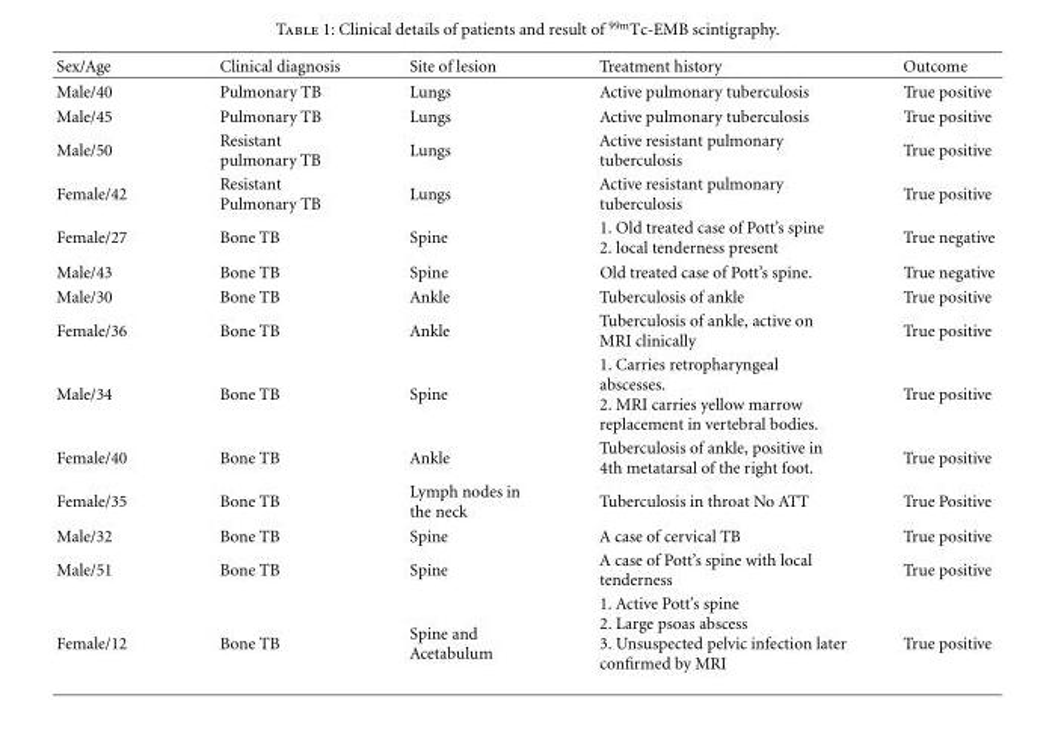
<table><thead><tr><td>Sex/Age</td><td>Clinical diagnosis</td><td>Site of lesion</td><td>Treatment history</td><td>Outcome</td></tr></thead><tbody><tr><td>Male/40</td><td>Pulmonary TB</td><td>Lungs</td><td>Active pulmonary tuberculosis</td><td>True positive</td></tr><tr><td>Male/45</td><td>Pulmonary TB</td><td>Lungs</td><td>Active pulmonary tuberculosis</td><td>True positive</td></tr><tr><td>Male/50</td><td>Resistant pulmonary TB</td><td>Lungs</td><td>Active resistant pulmonary tuberculosis</td><td>True positive</td></tr><tr><td>Female/42</td><td>Resistant Pulmonary TB</td><td>Lungs</td><td>Active resistant pulmonary tuberculosis</td><td>True positive</td></tr><tr><td>Female/27</td><td>Bone TB</td><td>Spine</td><td>1. Old treated case of Pott’s spine 2. local tenderness present</td><td>True negative</td></tr><tr><td>Male/43</td><td>Bone TB</td><td>Spine</td><td>Old treated case of Pott’s spine.</td><td>True negative</td></tr><tr><td>Male/30</td><td>Bone TB</td><td>Ankle</td><td>Tuberculosis of ankle</td><td>True positive</td></tr><tr><td>Female/36</td><td>Bone TB</td><td>Ankle</td><td>Tuberculosis of ankle, active on MRI clinically</td><td>True positive</td></tr><tr><td>Male/34</td><td>Bone TB</td><td>Spine</td><td>1. Carries retropharyngeal abscesses. 2. MRI carries yellow marrow replacement in vertebral bodies.</td><td>True positive</td></tr><tr><td>Female/40</td><td>Bone TB</td><td>Ankle</td><td>Tuberculosis of ankle, positive in 4th metatarsal of the right foot.</td><td>True positive</td></tr><tr><td>Female/35</td><td>Bone TB</td><td>Lymph nodes in the neck</td><td>Tuberculosis in throat No ATT</td><td>True Positive</td></tr><tr><td>Male/32</td><td>Bone TB</td><td>Spine</td><td>A case of cervical TB</td><td>True positive</td></tr><tr><td>Male/51</td><td>Bone TB</td><td>Spine</td><td>A case of Pott’s spine with local tenderness</td><td>True positive</td></tr><tr><td>Female/12</td><td>Bone TB</td><td>Spine and Acetabulum</td><td>1. Active Pott’s spine 2. Large psoas abscess 3. Unsuspected pelvic infection later confirmed by MRI</td><td>True positive</td></tr></tbody></table>